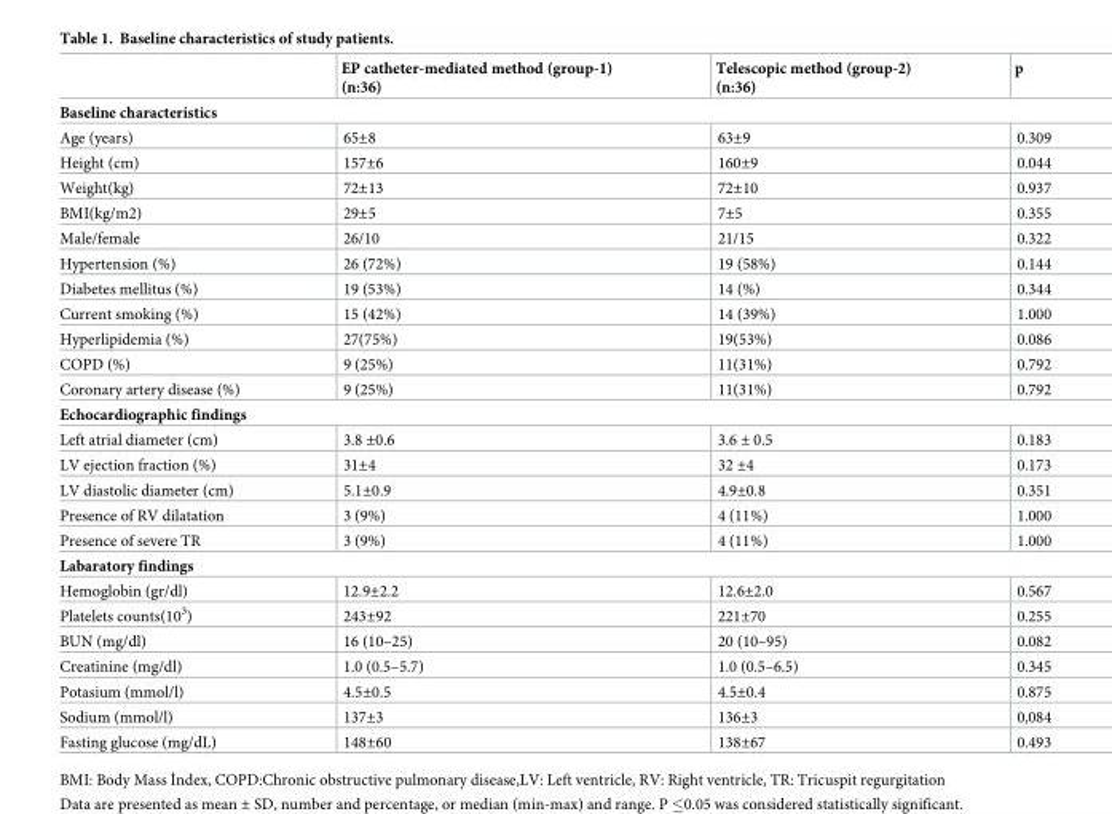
<table><thead><tr><td></td><td>EP catheter-mediated method (group-1) (n:36)</td><td>Telescopic method (group-2) (n:36)</td><td>p</td></tr></thead><tbody><tr><td colspan="4">Baseline characteristics</td></tr><tr><td>Age (years)</td><td>65±8</td><td>63±9</td><td>0.309</td></tr><tr><td>Height (cm)</td><td>157±6</td><td>160±9</td><td>0.044</td></tr><tr><td>Weight(kg)</td><td>72±13</td><td>72±10</td><td>0.937</td></tr><tr><td>BMI(kg/m2)</td><td>29±5</td><td>7±5</td><td>0.355</td></tr><tr><td>Male/female</td><td>26/10</td><td>21/15</td><td>0.322</td></tr><tr><td>Hypertension (%)</td><td>26 (72%)</td><td>19 (58%)</td><td>0.144</td></tr><tr><td>Diabetes mellitus (%)</td><td>19 (53%)</td><td>14 (%)</td><td>0.344</td></tr><tr><td>Current smoking (%)</td><td>15 (42%)</td><td>14 (39%)</td><td>1.000</td></tr><tr><td>Hyperlipidemia (%)</td><td>27(75%)</td><td>19(53%)</td><td>0.086</td></tr><tr><td>COPD (%)</td><td>9 (25%)</td><td>11(31%)</td><td>0.792</td></tr><tr><td>Coronary artery disease (%)</td><td>9 (25%)</td><td>11(31%)</td><td>0.792</td></tr><tr><td colspan="4">Echocardiographic findings</td></tr><tr><td>Left atrial diameter (cm)</td><td>3.8 ±0.6</td><td>3.6 ± 0.5</td><td>0.183</td></tr><tr><td>LV ejection fraction (%)</td><td>31±4</td><td>32 ±4</td><td>0.173</td></tr><tr><td>LV diastolic diameter (cm)</td><td>5.1±0.9</td><td>4.9±0.8</td><td>0.351</td></tr><tr><td>Presence of RV dilatation</td><td>3 (9%)</td><td>4 (11%)</td><td>1.000</td></tr><tr><td>Presence of severe TR</td><td>3 (9%)</td><td>4 (11%)</td><td>1.000</td></tr><tr><td colspan="4">Labaratory findings</td></tr><tr><td>Hemoglobin (gr/dl)</td><td>12.9±2.2</td><td>12.6±2.0</td><td>0.567</td></tr><tr><td>Platelets counts(10<sup>3</sup>)</td><td>243±92</td><td>221±70</td><td>0.255</td></tr><tr><td>BUN (mg/dl)</td><td>16 (10–25)</td><td>20 (10–95)</td><td>0.082</td></tr><tr><td>Creatinine (mg/dl)</td><td>1.0 (0.5–5.7)</td><td>1.0 (0.5–6.5)</td><td>0.345</td></tr><tr><td>Potasium (mmol/l)</td><td>4.5±0.5</td><td>4.5±0.4</td><td>0.875</td></tr><tr><td>Sodium (mmol/l)</td><td>137±3</td><td>136±3</td><td>0,084</td></tr><tr><td>Fasting glucose (mg/dL)</td><td>148±60</td><td>138±67</td><td>0.493</td></tr></tbody></table>